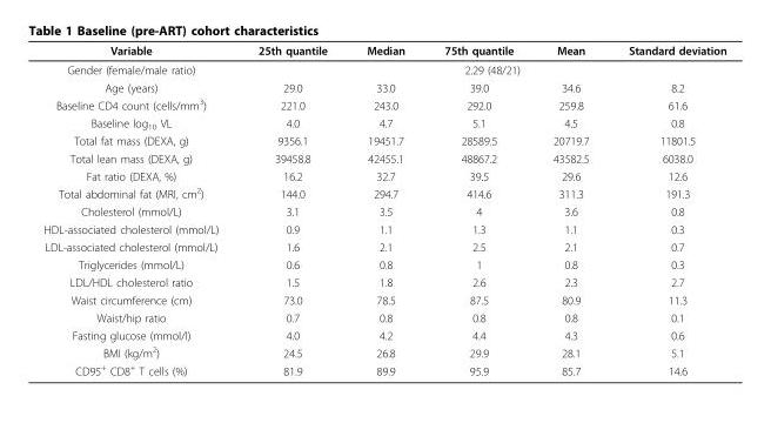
<table><thead><tr><td>Variable</td><td>25th quantile</td><td>Median</td><td>75th quantile</td><td>Mean</td><td>Standard deviation</td></tr></thead><tbody><tr><td>Gender (female/male ratio)</td><td colspan="5">2.29 (48/21)</td></tr><tr><td>Age (years)</td><td>29.0</td><td>33.0</td><td>39.0</td><td>34.6</td><td>8.2</td></tr><tr><td>Baseline CD4 count (cells/mm<sup>3</sup>)</td><td>221.0</td><td>243.0</td><td>292.0</td><td>259.8</td><td>61.6</td></tr><tr><td>Baseline log<sub>10</sub> VL</td><td>4.0</td><td>4.7</td><td>5.1</td><td>4.5</td><td>0.8</td></tr><tr><td>Total fat mass (DEXA, g)</td><td>9356.1</td><td>19451.7</td><td>28589.5</td><td>20719.7</td><td>11801.5</td></tr><tr><td>Total lean mass (DEXA, g)</td><td>39458.8</td><td>42455.1</td><td>48867.2</td><td>43582.5</td><td>6038.0</td></tr><tr><td>Fat ratio (DEXA, %)</td><td>16.2</td><td>32.7</td><td>39.5</td><td>29.6</td><td>12.6</td></tr><tr><td>Total abdominal fat (MRI, cm<sup>2</sup>)</td><td>144.0</td><td>294.7</td><td>414.6</td><td>311.3</td><td>191.3</td></tr><tr><td>Cholesterol (mmol/L)</td><td>3.1</td><td>3.5</td><td>4</td><td>3.6</td><td>0.8</td></tr><tr><td>HDL-associated cholesterol (mmol/L)</td><td>0.9</td><td>1.1</td><td>1.3</td><td>1.1</td><td>0.3</td></tr><tr><td>LDL-associated cholesterol (mmol/L)</td><td>1.6</td><td>2.1</td><td>2.5</td><td>2.1</td><td>0.7</td></tr><tr><td>Triglycerides (mmol/L)</td><td>0.6</td><td>0.8</td><td>1</td><td>0.8</td><td>0.3</td></tr><tr><td>LDL/HDL cholesterol ratio</td><td>1.5</td><td>1.8</td><td>2.6</td><td>2.3</td><td>2.7</td></tr><tr><td>Waist circumference (cm)</td><td>73.0</td><td>78.5</td><td>87.5</td><td>80.9</td><td>11.3</td></tr><tr><td>Waist/hip ratio</td><td>0.7</td><td>0.8</td><td>0.8</td><td>0.8</td><td>0.1</td></tr><tr><td>Fasting glucose (mmol/l)</td><td>4.0</td><td>4.2</td><td>4.4</td><td>4.3</td><td>0.6</td></tr><tr><td>BMI (kg/m<sup>2</sup>)</td><td>24.5</td><td>26.8</td><td>29.9</td><td>28.1</td><td>5.1</td></tr><tr><td>CD95<sup>+</sup> CD8<sup>+</sup> T cells (%)</td><td>81.9</td><td>89.9</td><td>95.9</td><td>85.7</td><td>14.6</td></tr></tbody></table>